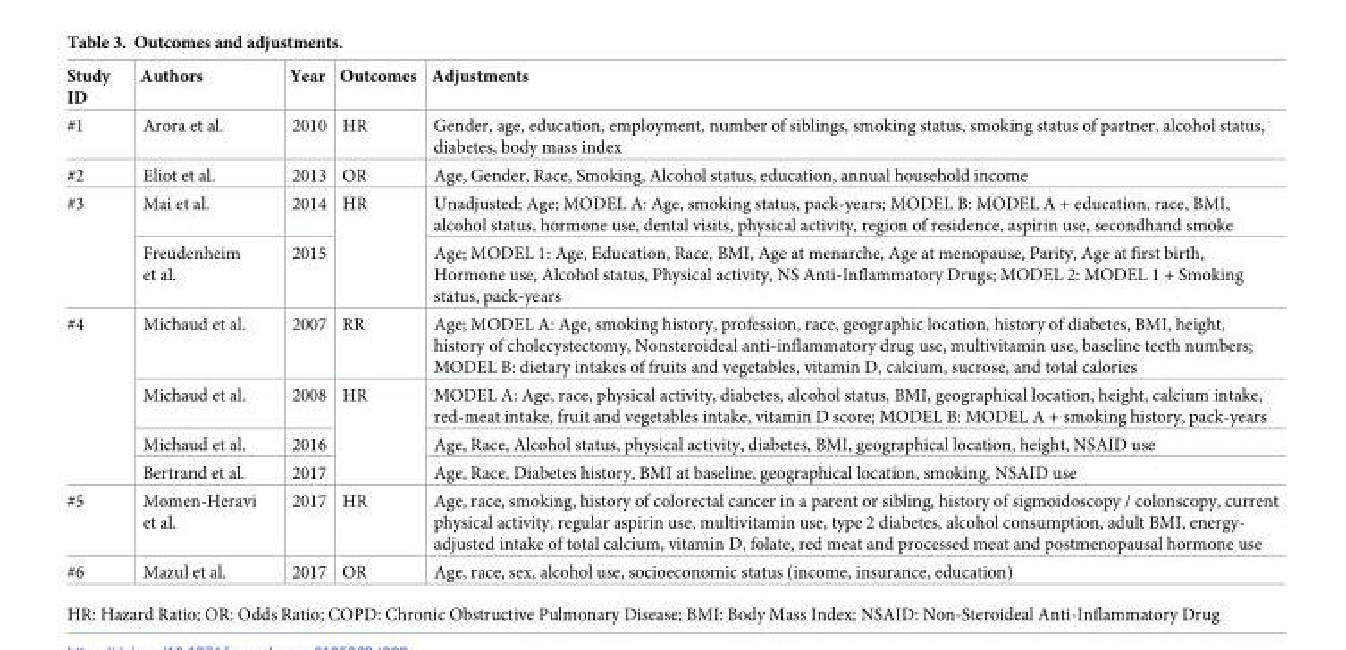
<table><thead><tr><td>Study ID</td><td>Authors</td><td>Year</td><td>Outcomes</td><td>Adjustments</td></tr></thead><tbody><tr><td>#1</td><td>Arora et al.</td><td>2010</td><td>HR</td><td>Gender, age, education, employment, number of siblings, smoking status, smoking status of partner, alcohol status, diabetes, body mass index</td></tr><tr><td>#2</td><td>Eliot et al.</td><td>2013</td><td>OR</td><td>Age, Gender, Race, Smoking, Alcohol status, education, annual household income</td></tr><tr><td rowspan="2">#3</td><td>Mai et al.</td><td>2014</td><td rowspan="2">HR</td><td>Unadjusted; Age; MODEL A: Age, smoking status, pack-years; MODEL B: MODEL A + education, race, BMI, alcohol status, hormone use, dental visits, physical activity, region of residence, aspirin use, secondhand smoke</td></tr><tr><td>Freudenheim et al.</td><td>2015</td><td>Age; MODEL 1: Age, Education, Race, BMI, Age at menarche, Age at menopause, Parity, Age at first birth, Hormone use, Alcohol status, Physical activity, NS Anti-Inflammatory Drugs; MODEL 2: MODEL 1 + Smoking status, pack-years</td></tr><tr><td rowspan="4">#4</td><td>Michaud et al.</td><td>2007</td><td>RR</td><td>Age; MODEL A: Age, smoking history, profession, race, geographic location, history of diabetes, BMI, height, history of cholecystectomy, Nonsteroideal anti-inflammatory drug use, multivitamin use, baseline teeth numbers; MODEL B: dietary intakes of fruits and vegetables, vitamin D, calcium, sucrose, and total calories</td></tr><tr><td>Michaud et al.</td><td>2008</td><td rowspan="3">HR</td><td>MODEL A: Age, race, physical activity, diabetes, alcohol status, BMI, geographical location, height, calcium intake, red-meat intake, fruit and vegetables intake, vitamin D score; MODEL B: MODEL A + smoking history, pack-years</td></tr><tr><td>Michaud et al.</td><td>2016</td><td>Age, Race, Alcohol status, physical activity, diabetes, BMI, geographical location, height, NSAID use</td></tr><tr><td>Bertrand et al.</td><td>2017</td><td>Age, Race, Diabetes history, BMI at baseline, geographical location, smoking, NSAID use</td></tr><tr><td>#5</td><td>Momen-Heravi et al.</td><td>2017</td><td>HR</td><td>Age, race, smoking, history of colorectal cancer in a parent or sibling, history of sigmoidoscopy / colonscopy, current physical activity, regular aspirin use, multivitamin use, type 2 diabetes, alcohol consumption, adult BMI, energy- adjusted intake of total calcium, vitamin D, folate, red meat and processed meat and postmenopausal hormone use</td></tr><tr><td>#6</td><td>Mazul et al.</td><td>2017</td><td>OR</td><td>Age, race, sex, alcohol use, socioeconomic status (income, insurance, education)</td></tr></tbody></table>